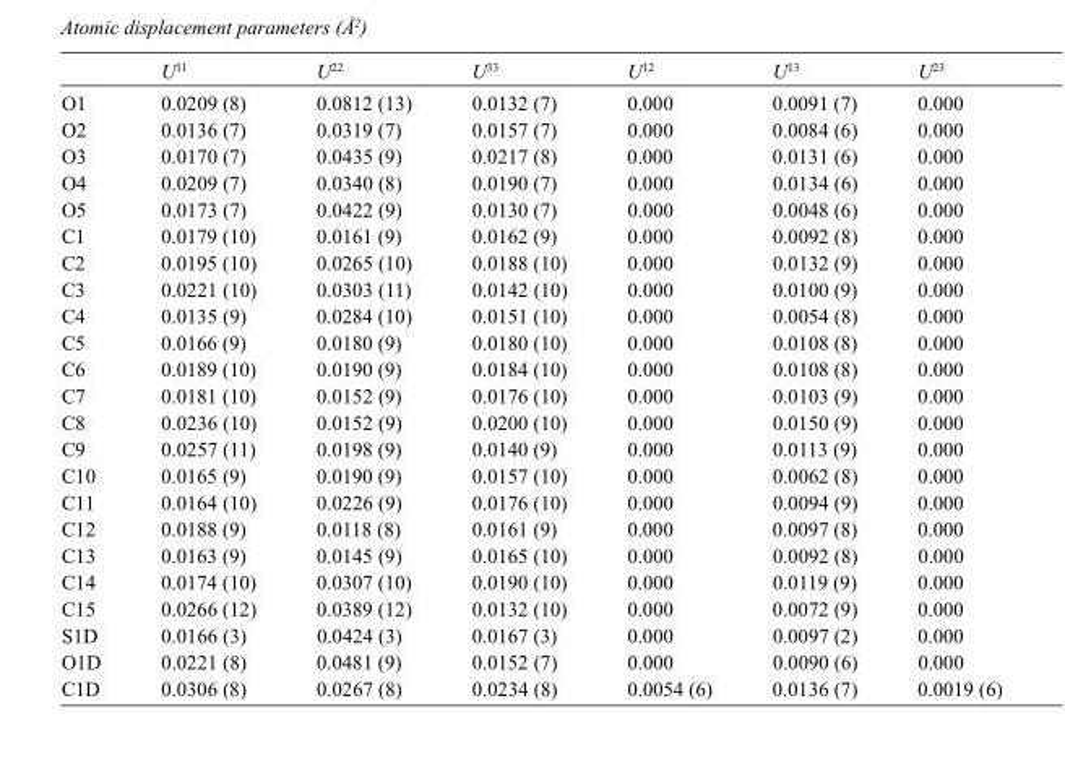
<table><thead><tr><td></td><td>U<sup>11</sup></td><td>U<sup>22</sup></td><td>U<sup>33</sup></td><td>U<sup>12</sup></td><td>U<sup>13</sup></td><td>U<sup>23</sup></td></tr></thead><tbody><tr><td>O1</td><td>0.0209 (8)</td><td>0.0812 (13)</td><td>0.0132 (7)</td><td>0.000</td><td>0.0091 (7)</td><td>0.000</td></tr><tr><td>O2</td><td>0.0136 (7)</td><td>0.0319 (7)</td><td>0.0157 (7)</td><td>0.000</td><td>0.0084 (6)</td><td>0.000</td></tr><tr><td>O3</td><td>0.0170 (7)</td><td>0.0435 (9)</td><td>0.0217 (8)</td><td>0.000</td><td>0.0131 (6)</td><td>0.000</td></tr><tr><td>O4</td><td>0.0209 (7)</td><td>0.0340 (8)</td><td>0.0190 (7)</td><td>0.000</td><td>0.0134 (6)</td><td>0.000</td></tr><tr><td>O5</td><td>0.0173 (7)</td><td>0.0422 (9)</td><td>0.0130 (7)</td><td>0.000</td><td>0.0048 (6)</td><td>0.000</td></tr><tr><td>C1</td><td>0.0179 (10)</td><td>0.0161 (9)</td><td>0.0162 (9)</td><td>0.000</td><td>0.0092 (8)</td><td>0.000</td></tr><tr><td>C2</td><td>0.0195 (10)</td><td>0.0265 (10)</td><td>0.0188 (10)</td><td>0.000</td><td>0.0132 (9)</td><td>0.000</td></tr><tr><td>C3</td><td>0.0221 (10)</td><td>0.0303 (11)</td><td>0.0142 (10)</td><td>0.000</td><td>0.0100 (9)</td><td>0.000</td></tr><tr><td>C4</td><td>0.0135 (9)</td><td>0.0284 (10)</td><td>0.0151 (10)</td><td>0.000</td><td>0.0054 (8)</td><td>0.000</td></tr><tr><td>C5</td><td>0.0166 (9)</td><td>0.0180 (9)</td><td>0.0180 (10)</td><td>0.000</td><td>0.0108 (8)</td><td>0.000</td></tr><tr><td>C6</td><td>0.0189 (10)</td><td>0.0190 (9)</td><td>0.0184 (10)</td><td>0.000</td><td>0.0108 (8)</td><td>0.000</td></tr><tr><td>C7</td><td>0.0181 (10)</td><td>0.0152 (9)</td><td>0.0176 (10)</td><td>0.000</td><td>0.0103 (9)</td><td>0.000</td></tr><tr><td>C8</td><td>0.0236 (10)</td><td>0.0152 (9)</td><td>0.0200 (10)</td><td>0.000</td><td>0.0150 (9)</td><td>0.000</td></tr><tr><td>C9</td><td>0.0257 (11)</td><td>0.0198 (9)</td><td>0.0140 (9)</td><td>0.000</td><td>0.0113 (9)</td><td>0.000</td></tr><tr><td>C10</td><td>0.0165 (9)</td><td>0.0190 (9)</td><td>0.0157 (10)</td><td>0.000</td><td>0.0062 (8)</td><td>0.000</td></tr><tr><td>C11</td><td>0.0164 (10)</td><td>0.0226 (9)</td><td>0.0176 (10)</td><td>0.000</td><td>0.0094 (9)</td><td>0.000</td></tr><tr><td>C12</td><td>0.0188 (9)</td><td>0.0118 (8)</td><td>0.0161 (9)</td><td>0.000</td><td>0.0097 (8)</td><td>0.000</td></tr><tr><td>C13</td><td>0.0163 (9)</td><td>0.0145 (9)</td><td>0.0165 (10)</td><td>0.000</td><td>0.0092 (8)</td><td>0.000</td></tr><tr><td>C14</td><td>0.0174 (10)</td><td>0.0307 (10)</td><td>0.0190 (10)</td><td>0.000</td><td>0.0119 (9)</td><td>0.000</td></tr><tr><td>C15</td><td>0.0266 (12)</td><td>0.0389 (12)</td><td>0.0132 (10)</td><td>0.000</td><td>0.0072 (9)</td><td>0.000</td></tr><tr><td>S1D</td><td>0.0166 (3)</td><td>0.0424 (3)</td><td>0.0167 (3)</td><td>0.000</td><td>0.0097 (2)</td><td>0.000</td></tr><tr><td>O1D</td><td>0.0221 (8)</td><td>0.0481 (9)</td><td>0.0152 (7)</td><td>0.000</td><td>0.0090 (6)</td><td>0.000</td></tr><tr><td>C1D</td><td>0.0306 (8)</td><td>0.0267 (8)</td><td>0.0234 (8)</td><td>0.0054 (6)</td><td>0.0136 (7)</td><td>0.0019 (6)</td></tr></tbody></table>